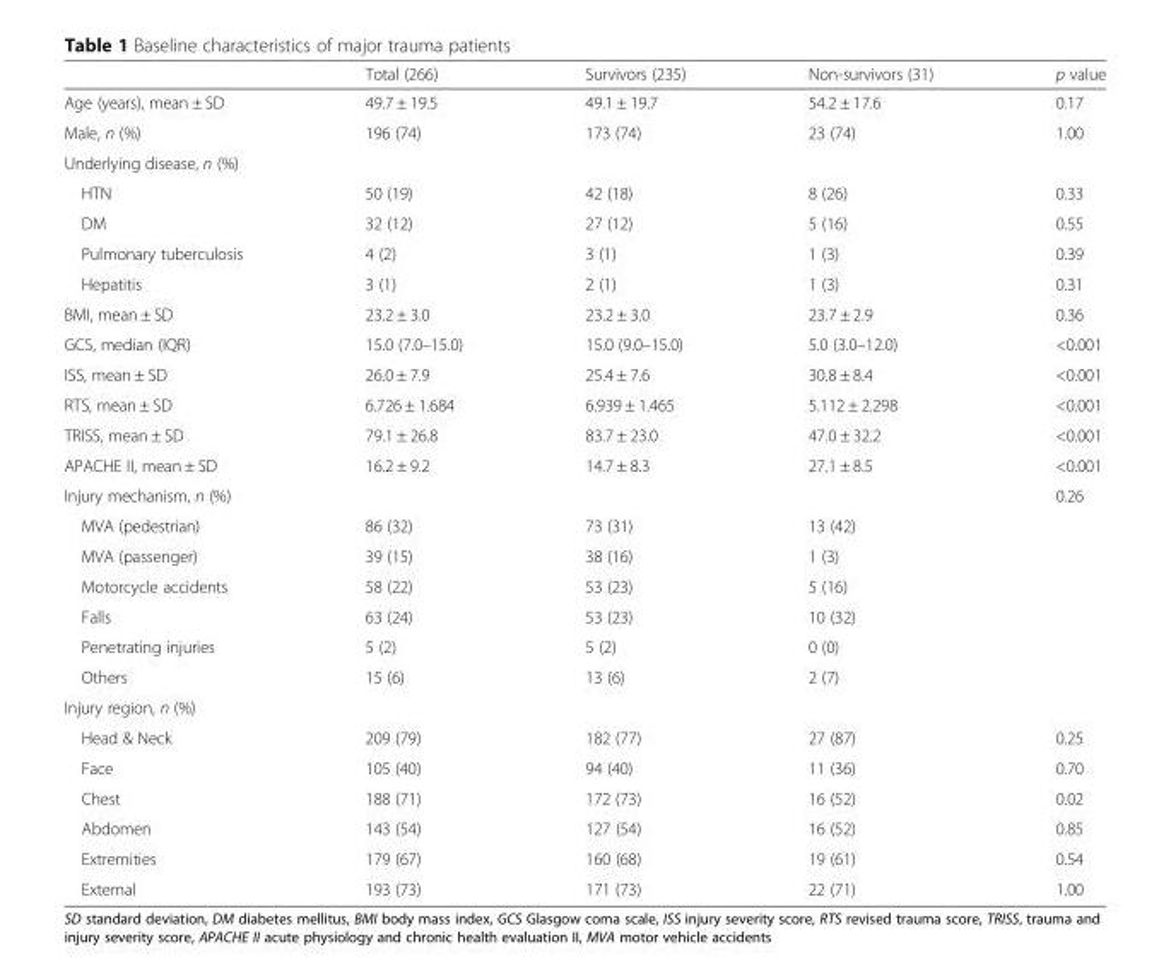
<table><thead><tr><td></td><td>Total (266)</td><td>Survivors (235)</td><td>Non-survivors (31)</td><td>p value</td></tr></thead><tbody><tr><td>Age (years), mean ± SD</td><td>49.7 ± 19.5</td><td>49.1 ± 19.7</td><td>54.2 ± 17.6</td><td>0.17</td></tr><tr><td>Male, n (%)</td><td>196 (74)</td><td>173 (74)</td><td>23 (74)</td><td>1.00</td></tr><tr><td colspan="5">Underlying disease, n (%)</td></tr><tr><td>HTN</td><td>50 (19)</td><td>42 (18)</td><td>8 (26)</td><td>0.33</td></tr><tr><td>DM</td><td>32 (12)</td><td>27 (12)</td><td>5 (16)</td><td>0.55</td></tr><tr><td>Pulmonary tuberculosis</td><td>4 (2)</td><td>3 (1)</td><td>1 (3)</td><td>0.39</td></tr><tr><td>Hepatitis</td><td>3 (1)</td><td>2 (1)</td><td>1 (3)</td><td>0.31</td></tr><tr><td>BMI, mean ± SD</td><td>23.2 ± 3.0</td><td>23.2 ± 3.0</td><td>23.7 ± 2.9</td><td>0.36</td></tr><tr><td>GCS, median (IQR)</td><td>15.0 (7.0–15.0)</td><td>15.0 (9.0–15.0)</td><td>5.0 (3.0–12.0)</td><td>&lt;0.001</td></tr><tr><td>ISS, mean ± SD</td><td>26.0 ± 7.9</td><td>25.4 ± 7.6</td><td>30.8 ± 8.4</td><td>&lt;0.001</td></tr><tr><td>RTS, mean ± SD</td><td>6.726 ± 1.684</td><td>6.939 ± 1.465</td><td>5.112 ± 2.298</td><td>&lt;0.001</td></tr><tr><td>TRISS, mean ± SD</td><td>79.1 ± 26.8</td><td>83.7 ± 23.0</td><td>47.0 ± 32.2</td><td>&lt;0.001</td></tr><tr><td>APACHE II, mean ± SD</td><td>16.2 ± 9.2</td><td>14.7 ± 8.3</td><td>27.1 ± 8.5</td><td>&lt;0.001</td></tr><tr><td>Injury mechanism, n (%)</td><td></td><td></td><td></td><td>0.26</td></tr><tr><td>MVA (pedestrian)</td><td>86 (32)</td><td>73 (31)</td><td>13 (42)</td><td></td></tr><tr><td>MVA (passenger)</td><td>39 (15)</td><td>38 (16)</td><td>1 (3)</td><td></td></tr><tr><td>Motorcycle accidents</td><td>58 (22)</td><td>53 (23)</td><td>5 (16)</td><td></td></tr><tr><td>Falls</td><td>63 (24)</td><td>53 (23)</td><td>10 (32)</td><td></td></tr><tr><td>Penetrating injuries</td><td>5 (2)</td><td>5 (2)</td><td>0 (0)</td><td></td></tr><tr><td>Others</td><td>15 (6)</td><td>13 (6)</td><td>2 (7)</td><td></td></tr><tr><td colspan="5">Injury region, n (%)</td></tr><tr><td>Head &amp; Neck</td><td>209 (79)</td><td>182 (77)</td><td>27 (87)</td><td>0.25</td></tr><tr><td>Face</td><td>105 (40)</td><td>94 (40)</td><td>11 (36)</td><td>0.70</td></tr><tr><td>Chest</td><td>188 (71)</td><td>172 (73)</td><td>16 (52)</td><td>0.02</td></tr><tr><td>Abdomen</td><td>143 (54)</td><td>127 (54)</td><td>16 (52)</td><td>0.85</td></tr><tr><td>Extremities</td><td>179 (67)</td><td>160 (68)</td><td>19 (61)</td><td>0.54</td></tr><tr><td>External</td><td>193 (73)</td><td>171 (73)</td><td>22 (71)</td><td>1.00</td></tr></tbody></table>